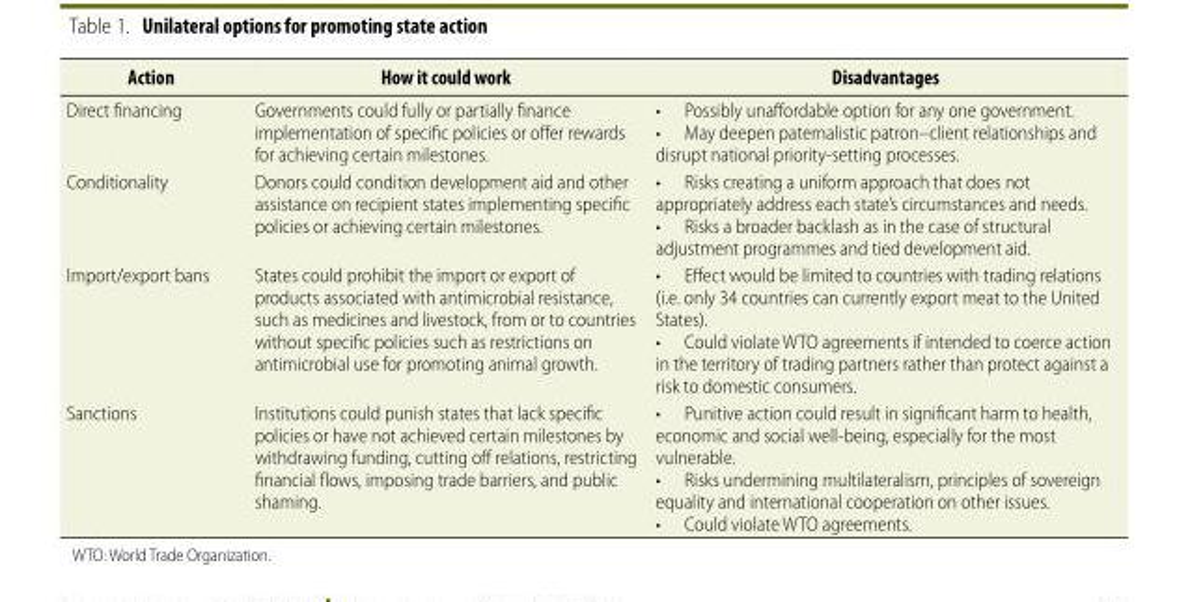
<table><thead><tr><td>Action</td><td>How it could work</td><td>Disadvantages</td></tr></thead><tbody><tr><td>Direct financing</td><td>Governments could fully or partially finance implementation of specific policies or offer rewards for achieving certain milestones.</td><td>• Possibly unaffordable option for any one government. • May deepen paternalistic patron–client relationships and disrupt national priority-setting processes.</td></tr><tr><td>Conditionality</td><td>Donors could condition development aid and other assistance on recipient states implementing specific policies or achieving certain milestones.</td><td>• Risks creating a uniform approach that does not appropriately address each state’s circumstances and needs. • Risks a broader backlash as in the case of structural adjustment programmes and tied development aid.</td></tr><tr><td>Import/export bans</td><td>States could prohibit the import or export of products associated with antimicrobial resistance, such as medicines and livestock, from or to countries without specific policies such as restrictions on antimicrobial use for promoting animal growth.</td><td>• Effect would be limited to countries with trading relations (i.e. only 34 countries can currently export meat to the United States). • Could violate WTO agreements if intended to coerce action in the territory of trading partners rather than protect against a risk to domestic consumers.</td></tr><tr><td>Sanctions</td><td>Institutions could punish states that lack specific policies or have not achieved certain milestones by withdrawing funding, cutting off relations, restricting financial flows, imposing trade barriers, and public shaming.</td><td>• Punitive action could result in significant harm to health, economic and social well-being, especially for the most vulnerable. • Risks undermining multilateralism, principles of sovereign equality and international cooperation on other issues. • Could violate WTO agreements.</td></tr></tbody></table>